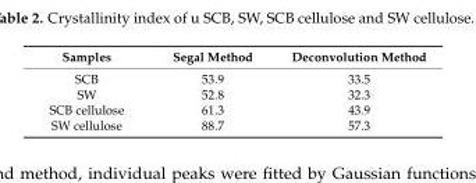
<table><thead><tr><td>Samples</td><td>Segal Method</td><td>Deconvolution Method</td></tr></thead><tbody><tr><td>SCB</td><td>53.9</td><td>33.5</td></tr><tr><td>SW</td><td>52.8</td><td>32.3</td></tr><tr><td>SCB cellulose</td><td>61.3</td><td>43.9</td></tr><tr><td>SW cellulose</td><td>88.7</td><td>57.3</td></tr></tbody></table>